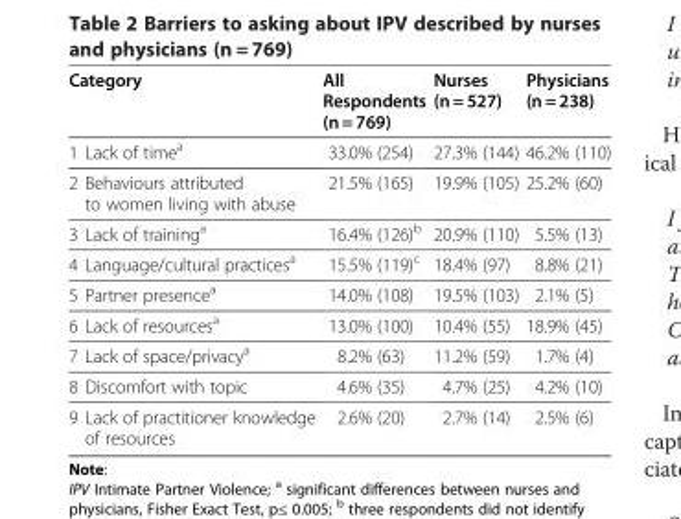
<table><thead><tr><td>Category</td><td>All Respondents (n = 769)</td><td>Nurses (n = 527)</td><td>Physicians (n = 238)</td></tr></thead><tbody><tr><td>1 Lack of time<sup>a</sup></td><td>33.0% (254)</td><td>27.3% (144)</td><td>46.2% (110)</td></tr><tr><td>2 Behaviours attributed to women living with abuse</td><td>21.5% (165)</td><td>19.9% (105)</td><td>25.2% (60)</td></tr><tr><td>3 Lack of training<sup>a</sup></td><td>16.4% (126)<sup>b</sup></td><td>20.9% (110)</td><td>5.5% (13)</td></tr><tr><td>4 Language/cultural practices<sup>a</sup></td><td>15.5% (119)<sup>c</sup></td><td>18.4% (97)</td><td>8.8% (21)</td></tr><tr><td>5 Partner presence<sup>a</sup></td><td>14.0% (108)</td><td>19.5% (103)</td><td>2.1% (5)</td></tr><tr><td>6 Lack of resources<sup>a</sup></td><td>13.0% (100)</td><td>10.4% (55)</td><td>18.9% (45)</td></tr><tr><td>7 Lack of space/privacy<sup>a</sup></td><td>8.2% (63)</td><td>11.2% (59)</td><td>1.7% (4)</td></tr><tr><td>8 Discomfort with topic</td><td>4.6% (35)</td><td>4.7% (25)</td><td>4.2% (10)</td></tr><tr><td>9 Lack of practitioner knowledge of resources</td><td>2.6% (20)</td><td>2.7% (14)</td><td>2.5% (6)</td></tr></tbody></table>